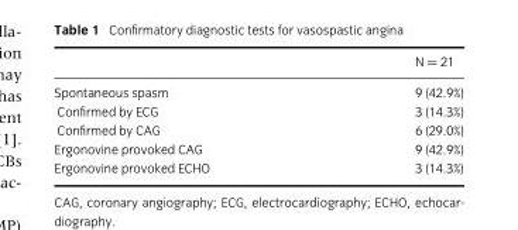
<table><thead><tr><td></td><td>N = 21</td></tr></thead><tbody><tr><td>Spontaneous spasm</td><td>9 (42.9%)</td></tr><tr><td>Confirmed by ECG</td><td>3 (14.3%)</td></tr><tr><td>Confirmed by CAG</td><td>6 (29.0%)</td></tr><tr><td>Ergonovine provoked CAG</td><td>9 (42.9%)</td></tr><tr><td>Ergonovine provoked ECHO</td><td>3 (14.3%)</td></tr></tbody></table>